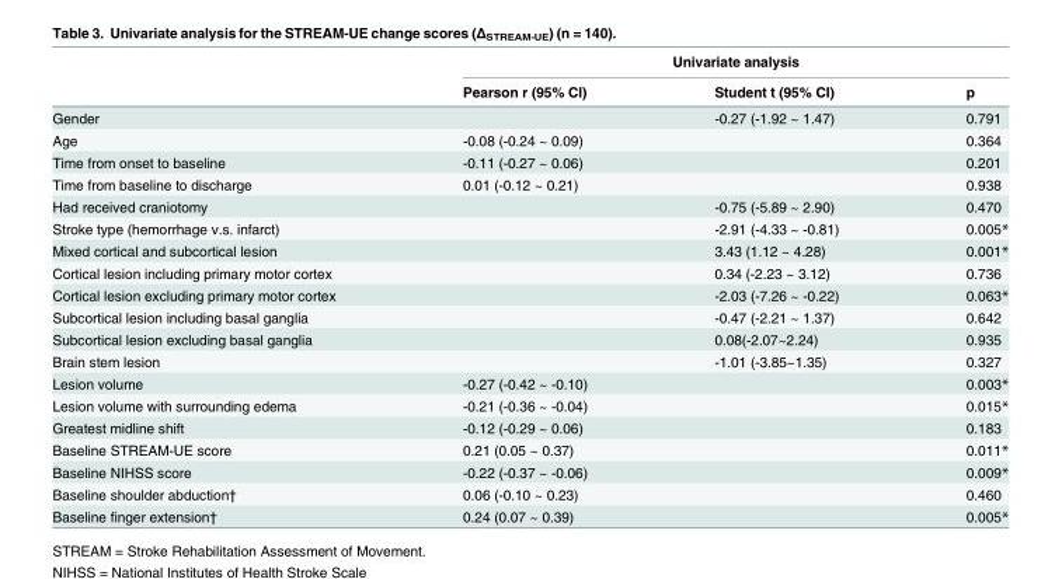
<table><thead><tr><td rowspan="2"></td><td colspan="3">Univariate analysis</td></tr><tr><td>Pearson r (95% CI)</td><td>Student t (95% CI)</td><td>p</td></tr></thead><tbody><tr><td>Gender</td><td></td><td>-0.27 (-1.92 ~ 1.47)</td><td>0.791</td></tr><tr><td>Age</td><td>-0.08 (-0.24 ~ 0.09)</td><td></td><td>0.364</td></tr><tr><td>Time from onset to baseline</td><td>-0.11 (-0.27 ~ 0.06)</td><td></td><td>0.201</td></tr><tr><td>Time from baseline to discharge</td><td>0.01 (-0.12 ~ 0.21)</td><td></td><td>0.938</td></tr><tr><td>Had received craniotomy</td><td></td><td>-0.75 (-5.89 ~ 2.90)</td><td>0.470</td></tr><tr><td>Stroke type (hemorrhage v.s. infarct)</td><td></td><td>-2.91 (-4.33 ~ -0.81)</td><td>0.005*</td></tr><tr><td>Mixed cortical and subcortical lesion</td><td></td><td>3.43 (1.12 ~ 4.28)</td><td>0.001*</td></tr><tr><td>Cortical lesion including primary motor cortex</td><td></td><td>0.34 (-2.23 ~ 3.12)</td><td>0.736</td></tr><tr><td>Cortical lesion excluding primary motor cortex</td><td></td><td>-2.03 (-7.26 ~ -0.22)</td><td>0.063*</td></tr><tr><td>Subcortical lesion including basal ganglia</td><td></td><td>-0.47 (-2.21 ~ 1.37)</td><td>0.642</td></tr><tr><td>Subcortical lesion excluding basal ganglia</td><td></td><td>0.08(-2.07~2.24)</td><td>0.935</td></tr><tr><td>Brain stem lesion</td><td></td><td>-1.01 (-3.85~1.35)</td><td>0.327</td></tr><tr><td>Lesion volume</td><td>-0.27 (-0.42 ~ -0.10)</td><td></td><td>0.003*</td></tr><tr><td>Lesion volume with surrounding edema</td><td>-0.21 (-0.36 ~ -0.04)</td><td></td><td>0.015*</td></tr><tr><td>Greatest midline shift</td><td>-0.12 (-0.29 ~ 0.06)</td><td></td><td>0.183</td></tr><tr><td>Baseline STREAM-UE score</td><td>0.21 (0.05 ~ 0.37)</td><td></td><td>0.011*</td></tr><tr><td>Baseline NIHSS score</td><td>-0.22 (-0.37 ~ -0.06)</td><td></td><td>0.009*</td></tr><tr><td>Baseline shoulder abduction†</td><td>0.06 (-0.10 ~ 0.23)</td><td></td><td>0.460</td></tr><tr><td>Baseline finger extension†</td><td>0.24 (0.07 ~ 0.39)</td><td></td><td>0.005*</td></tr></tbody></table>